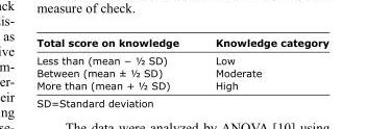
<table><thead><tr><td>Total score on knowledge</td><td>Knowledge category</td></tr></thead><tbody><tr><td>Less than (mean − ½ SD)</td><td>Low</td></tr><tr><td>Between (mean ± ½ SD)</td><td>Moderate</td></tr><tr><td>More than (mean + ½ SD)</td><td>High</td></tr></tbody></table>